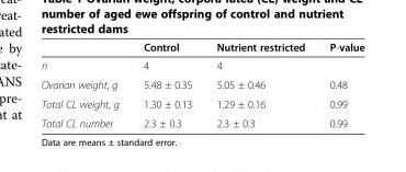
<table><thead><tr><td></td><td>Control</td><td>Nutrient restricted</td><td>P-value</td></tr></thead><tbody><tr><td>n</td><td>4</td><td>4</td><td></td></tr><tr><td>Ovarian weight, g</td><td>5.48 ± 0.35</td><td>5.05 ± 0.46</td><td>0.48</td></tr><tr><td>Total CL weight, g</td><td>1.30 ± 0.13</td><td>1.29 ± 0.16</td><td>0.99</td></tr><tr><td>Total CL number</td><td>2.3 ± 0.3</td><td>2.3 ± 0.3</td><td>0.99</td></tr></tbody></table>